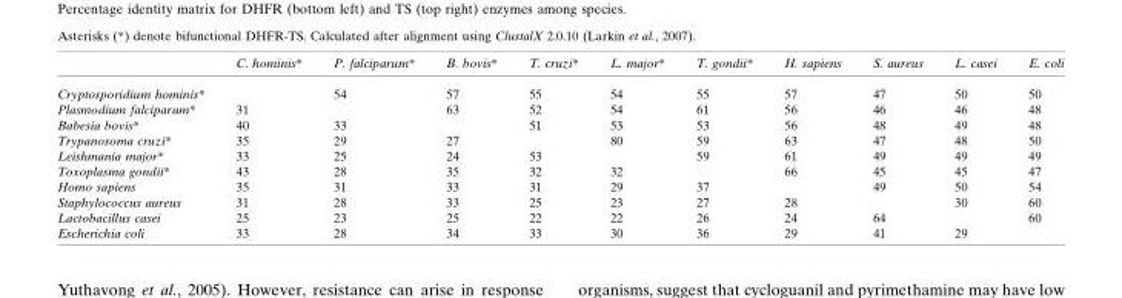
<table><thead><tr><td></td><td>C. hominis*</td><td>P. falciparum*</td><td>B. bovis*</td><td>T. cruzi*</td><td>L. major*</td><td>T. gondii*</td><td>H. sapiens</td><td>S. aureus</td><td>L. casei</td><td>E. coli</td></tr></thead><tbody><tr><td>Cryptosporidium hominis*</td><td></td><td>54</td><td>57</td><td>55</td><td>54</td><td>55</td><td>57</td><td>47</td><td>50</td><td>50</td></tr><tr><td>Plasmodium falciparum*</td><td>31</td><td></td><td>63</td><td>52</td><td>54</td><td>61</td><td>56</td><td>46</td><td>46</td><td>48</td></tr><tr><td>Babesia bovis*</td><td>40</td><td>33</td><td></td><td>51</td><td>53</td><td>53</td><td>56</td><td>48</td><td>49</td><td>48</td></tr><tr><td>Trypanosoma cruzi*</td><td>35</td><td>29</td><td>27</td><td></td><td>80</td><td>59</td><td>63</td><td>47</td><td>48</td><td>50</td></tr><tr><td>Leishmania major*</td><td>33</td><td>25</td><td>24</td><td>53</td><td></td><td>59</td><td>61</td><td>49</td><td>49</td><td>49</td></tr><tr><td>Toxoplasma gondii*</td><td>43</td><td>28</td><td>35</td><td>32</td><td>32</td><td></td><td>66</td><td>45</td><td>45</td><td>47</td></tr><tr><td>Homo sapiens</td><td>35</td><td>31</td><td>33</td><td>31</td><td>29</td><td>37</td><td></td><td>49</td><td>50</td><td>54</td></tr><tr><td>Staphylococcus aureus</td><td>31</td><td>28</td><td>33</td><td>25</td><td>23</td><td>27</td><td>28</td><td></td><td>30</td><td>60</td></tr><tr><td>Lactobacillus casei</td><td>25</td><td>23</td><td>25</td><td>22</td><td>22</td><td>26</td><td>24</td><td>64</td><td></td><td>60</td></tr><tr><td>Escherichia coli</td><td>33</td><td>28</td><td>34</td><td>33</td><td>30</td><td>36</td><td>29</td><td>41</td><td>29</td><td></td></tr></tbody></table>